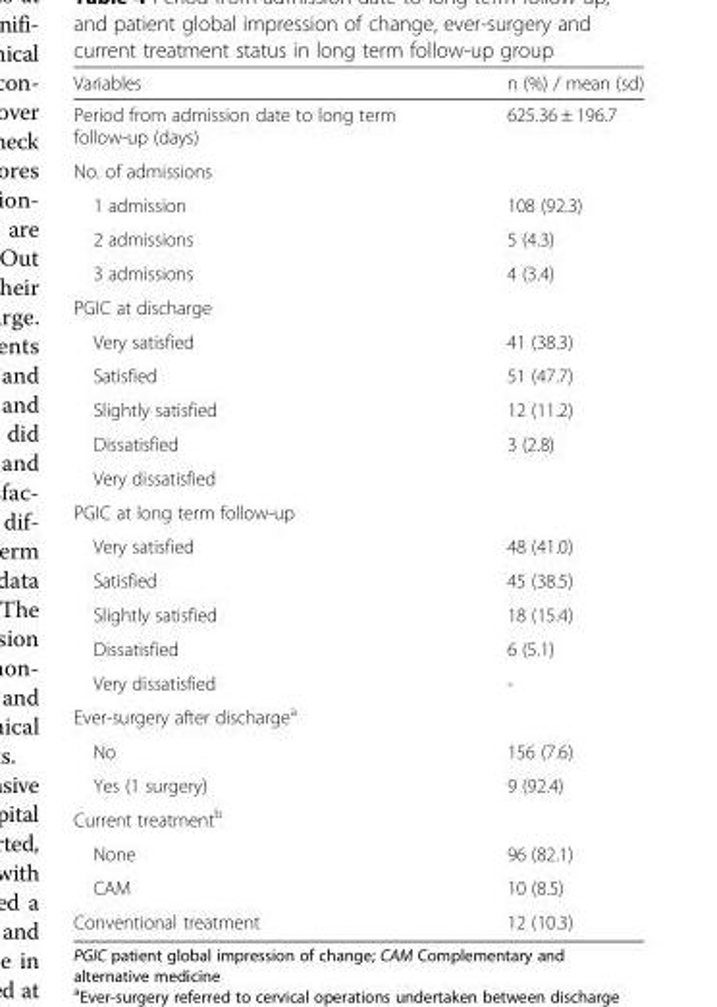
<table><thead><tr><td>Variables</td><td>n (%) / mean (sd)</td></tr></thead><tbody><tr><td>Period from admission date to long term follow-up (days)</td><td>625.36 ± 196.7</td></tr><tr><td colspan="2">No. of admissions</td></tr><tr><td>1 admission</td><td>108 (92.3)</td></tr><tr><td>2 admissions</td><td>5 (4.3)</td></tr><tr><td>3 admissions</td><td>4 (3.4)</td></tr><tr><td colspan="2">PGIC at discharge</td></tr><tr><td>Very satisfied</td><td>41 (38.3)</td></tr><tr><td>Satisfied</td><td>51 (47.7)</td></tr><tr><td>Slightly satisfied</td><td>12 (11.2)</td></tr><tr><td>Dissatisfied</td><td>3 (2.8)</td></tr><tr><td colspan="2">Very dissatisfied</td></tr><tr><td colspan="2">PGIC at long term follow-up</td></tr><tr><td>Very satisfied</td><td>48 (41.0)</td></tr><tr><td>Satisfied</td><td>45 (38.5)</td></tr><tr><td>Slightly satisfied</td><td>18 (15.4)</td></tr><tr><td>Dissatisfied</td><td>6 (5.1)</td></tr><tr><td>Very dissatisfied</td><td>-</td></tr><tr><td colspan="2">Ever-surgery after discharge<sup>a</sup></td></tr><tr><td>No</td><td>156 (7.6)</td></tr><tr><td>Yes (1 surgery)</td><td>9 (92.4)</td></tr><tr><td colspan="2">Current treatment<sup>b</sup></td></tr><tr><td>None</td><td>96 (82.1)</td></tr><tr><td>CAM</td><td>10 (8.5)</td></tr><tr><td>Conventional treatment</td><td>12 (10.3)</td></tr></tbody></table>